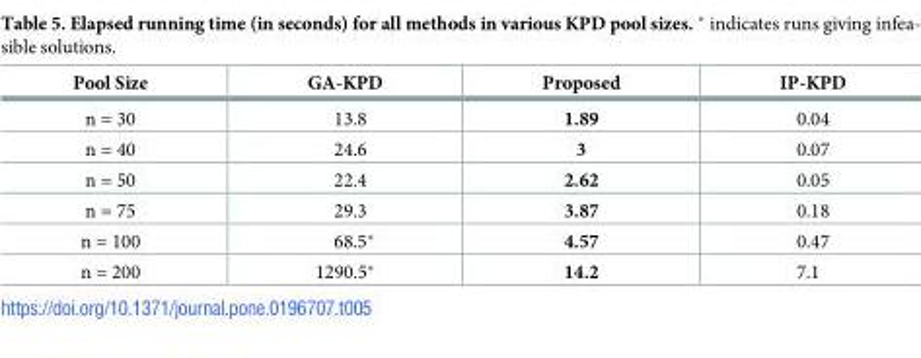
<table><thead><tr><td>Pool Size</td><td>GA-KPD</td><td>Proposed</td><td>IP-KPD</td></tr></thead><tbody><tr><td>n = 30</td><td>13.8</td><td>1.89</td><td>0.04</td></tr><tr><td>n = 40</td><td>24.6</td><td>3</td><td>0.07</td></tr><tr><td>n = 50</td><td>22.4</td><td>2.62</td><td>0.05</td></tr><tr><td>n = 75</td><td>29.3</td><td>3.87</td><td>0.18</td></tr><tr><td>n = 100</td><td>68.5*</td><td>4.57</td><td>0.47</td></tr><tr><td>n = 200</td><td>1290.5*</td><td>14.2</td><td>7.1</td></tr></tbody></table>